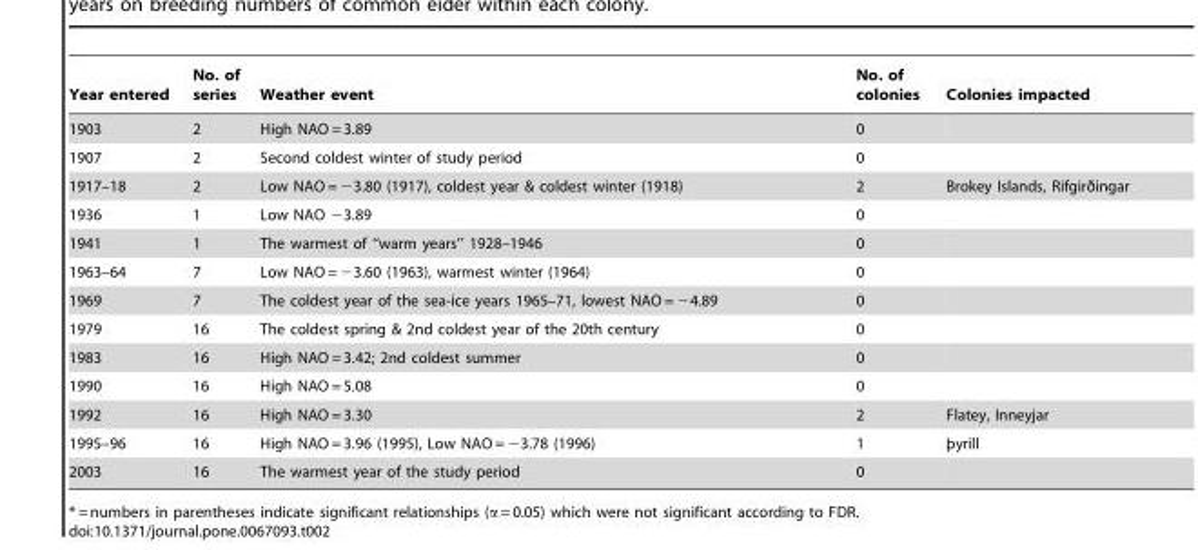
<table><thead><tr><td>Year entered</td><td>No. of series</td><td>Weather event</td><td>No. of colonies</td><td>Colonies impacted</td></tr></thead><tbody><tr><td>1903</td><td>2</td><td>High NAO = 3.89</td><td>0</td><td></td></tr><tr><td>1907</td><td>2</td><td>Second coldest winter of study period</td><td>0</td><td></td></tr><tr><td>1917–18</td><td>2</td><td>Low NAO = −3.80 (1917), coldest year &amp; coldest winter (1918)</td><td>2</td><td>Brokey Islands, Rifgirðingar</td></tr><tr><td>1936</td><td>1</td><td>Low NAO −3.89</td><td>0</td><td></td></tr><tr><td>1941</td><td>1</td><td>The warmest of ‘‘warm years’’ 1928–1946</td><td>0</td><td></td></tr><tr><td>1963–64</td><td>7</td><td>Low NAO = −3.60 (1963), warmest winter (1964)</td><td>0</td><td></td></tr><tr><td>1969</td><td>7</td><td>The coldest year of the sea-ice years 1965–71, lowest NAO = −4.89</td><td>0</td><td></td></tr><tr><td>1979</td><td>16</td><td>The coldest spring &amp; 2nd coldest year of the 20th century</td><td>0</td><td></td></tr><tr><td>1983</td><td>16</td><td>High NAO = 3.42; 2nd coldest summer</td><td>0</td><td></td></tr><tr><td>1990</td><td>16</td><td>High NAO = 5.08</td><td>0</td><td></td></tr><tr><td>1992</td><td>16</td><td>High NAO = 3.30</td><td>2</td><td>Flatey, Inneyjar</td></tr><tr><td>1995–96</td><td>16</td><td>High NAO = 3.96 (1995), Low NAO = −3.78 (1996)</td><td>1</td><td>þyrill</td></tr><tr><td>2003</td><td>16</td><td>The warmest year of the study period</td><td>0</td><td></td></tr></tbody></table>